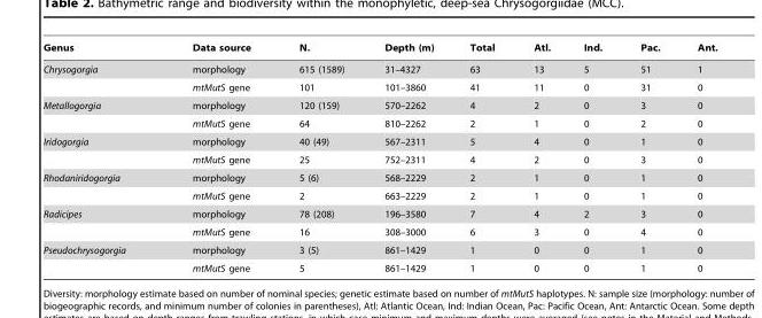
<table><thead><tr><td>Genus</td><td>Data source</td><td>N.</td><td>Depth (m)</td><td>Total</td><td>Atl.</td><td>Ind.</td><td>Pac.</td><td>Ant.</td></tr></thead><tbody><tr><td rowspan="2">Chrysogorgia</td><td>morphology</td><td>615 (1589)</td><td>31–4327</td><td>63</td><td>13</td><td>5</td><td>51</td><td>1</td></tr><tr><td>mtMutS gene</td><td>101</td><td>101–3860</td><td>41</td><td>11</td><td>0</td><td>31</td><td>0</td></tr><tr><td rowspan="2">Metallogorgia</td><td>morphology</td><td>120 (159)</td><td>570–2262</td><td>4</td><td>2</td><td>0</td><td>3</td><td>0</td></tr><tr><td>mtMutS gene</td><td>64</td><td>810–2262</td><td>2</td><td>1</td><td>0</td><td>2</td><td>0</td></tr><tr><td rowspan="2">Iridogorgia</td><td>morphology</td><td>40 (49)</td><td>567–2311</td><td>5</td><td>4</td><td>0</td><td>1</td><td>0</td></tr><tr><td>mtMutS gene</td><td>25</td><td>752–2311</td><td>4</td><td>2</td><td>0</td><td>3</td><td>0</td></tr><tr><td rowspan="2">Rhodaniridogorgia</td><td>morphology</td><td>5 (6)</td><td>568–2229</td><td>2</td><td>1</td><td>0</td><td>1</td><td>0</td></tr><tr><td>mtMutS gene</td><td>2</td><td>663–2229</td><td>2</td><td>1</td><td>0</td><td>1</td><td>0</td></tr><tr><td rowspan="2">Radicipes</td><td>morphology</td><td>78 (208)</td><td>196–3580</td><td>7</td><td>4</td><td>2</td><td>3</td><td>0</td></tr><tr><td>mtMutS gene</td><td>16</td><td>308–3000</td><td>6</td><td>3</td><td>0</td><td>4</td><td>0</td></tr><tr><td rowspan="2">Pseudochrysogorgia</td><td>morphology</td><td>3 (5)</td><td>861–1429</td><td>1</td><td>0</td><td>0</td><td>1</td><td>0</td></tr><tr><td>mtMutS gene</td><td>5</td><td>861–1429</td><td>1</td><td>0</td><td>0</td><td>1</td><td>0</td></tr></tbody></table>